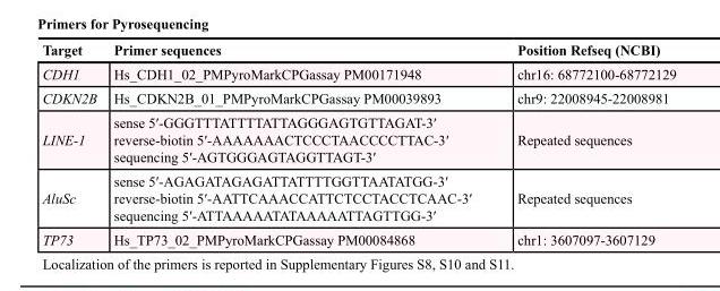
<table><thead><tr><td>Target</td><td>Primer sequences</td><td>Position Refseq (NCBI)</td></tr></thead><tbody><tr><td>CDH1</td><td>Hs_CDH1_02_PMPyroMarkCPGassay PM00171948</td><td>chr16: 68772100-68772129</td></tr><tr><td>CDKN2B</td><td>Hs_CDKN2B_01_PMPyroMarkCPGassay PM00039893</td><td>chr9: 22008945-22008981</td></tr><tr><td>LINE-1</td><td>sense 5ʹ-GGGTTTATTTTATTAGGGAGTGTTAGAT-3ʹ reverse-biotin 5ʹ-AAAAAAACTCCCTAACCCCTTAC-3ʹ sequencing 5ʹ-AGTGGGAGTAGGTTAGT-3ʹ</td><td>Repeated sequences</td></tr><tr><td>AluSc</td><td>sense 5ʹ-AGAGATAGAGATTATTTTGGTTAATATGG-3ʹ reverse-biotin 5ʹ-AATTCAAACCATTCTCCTACCTCAAC-3ʹ sequencing 5ʹ-ATTAAAAATATAAAAATTAGTTGG-3ʹ</td><td>Repeated sequences</td></tr><tr><td>TP73</td><td>Hs_TP73_02_PMPyroMarkCPGassay PM00084868</td><td>chr1: 3607097-3607129</td></tr></tbody></table>